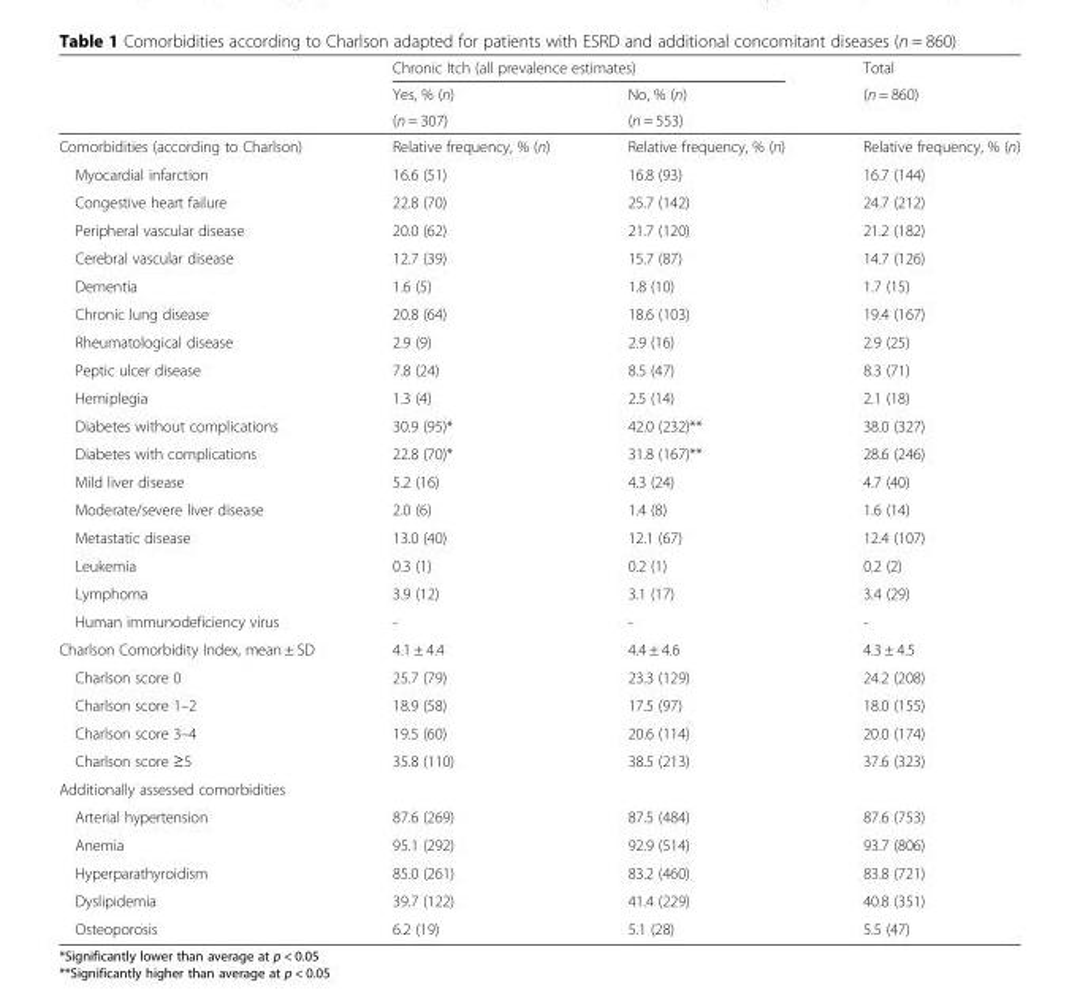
<table><thead><tr><td rowspan="3"></td><td colspan="2">Chronic Itch (all prevalence estimates)</td><td rowspan="3">Total (n = 860)</td></tr><tr><td rowspan="2">Yes, % (n) (n = 307)</td><td rowspan="2">No, % (n) (n = 553)</td></tr><tr></tr></thead><tbody><tr><td>Comorbidities (according to Charlson)</td><td>Relative frequency, % (n)</td><td>Relative frequency, % (n)</td><td>Relative frequency, % (n)</td></tr><tr><td>Myocardial infarction</td><td>16.6 (51)</td><td>16.8 (93)</td><td>16.7 (144)</td></tr><tr><td>Congestive heart failure</td><td>22.8 (70)</td><td>25.7 (142)</td><td>24.7 (212)</td></tr><tr><td>Peripheral vascular disease</td><td>20.0 (62)</td><td>21.7 (120)</td><td>21.2 (182)</td></tr><tr><td>Cerebral vascular disease</td><td>12.7 (39)</td><td>15.7 (87)</td><td>14.7 (126)</td></tr><tr><td>Dementia</td><td>1.6 (5)</td><td>1.8 (10)</td><td>1.7 (15)</td></tr><tr><td>Chronic lung disease</td><td>20.8 (64)</td><td>18.6 (103)</td><td>19.4 (167)</td></tr><tr><td>Rheumatological disease</td><td>2.9 (9)</td><td>2.9 (16)</td><td>2.9 (25)</td></tr><tr><td>Peptic ulcer disease</td><td>7.8 (24)</td><td>8.5 (47)</td><td>8.3 (71)</td></tr><tr><td>Hemiplegia</td><td>1.3 (4)</td><td>2.5 (14)</td><td>2.1 (18)</td></tr><tr><td>Diabetes without complications</td><td>30.9 (95)*</td><td>42.0 (232)**</td><td>38.0 (327)</td></tr><tr><td>Diabetes with complications</td><td>22.8 (70)*</td><td>31.8 (167)**</td><td>28.6 (246)</td></tr><tr><td>Mild liver disease</td><td>5.2 (16)</td><td>4.3 (24)</td><td>4.7 (40)</td></tr><tr><td>Moderate/severe liver disease</td><td>2.0 (6)</td><td>1.4 (8)</td><td>1.6 (14)</td></tr><tr><td>Metastatic disease</td><td>13.0 (40)</td><td>12.1 (67)</td><td>12.4 (107)</td></tr><tr><td>Leukemia</td><td>0.3 (1)</td><td>0.2 (1)</td><td>0.2 (2)</td></tr><tr><td>Lymphoma</td><td>3.9 (12)</td><td>3.1 (17)</td><td>3.4 (29)</td></tr><tr><td>Human immunodeficiency virus</td><td>-</td><td>-</td><td>-</td></tr><tr><td>Charlson Comorbidity Index, mean ± SD</td><td>4.1 ± 4.4</td><td>4.4 ± 4.6</td><td>4.3 ± 4.5</td></tr><tr><td>Charlson score 0</td><td>25.7 (79)</td><td>23.3 (129)</td><td>24.2 (208)</td></tr><tr><td>Charlson score 1–2</td><td>18.9 (58)</td><td>17.5 (97)</td><td>18.0 (155)</td></tr><tr><td>Charlson score 3–4</td><td>19.5 (60)</td><td>20.6 (114)</td><td>20.0 (174)</td></tr><tr><td>Charlson score ≥5</td><td>35.8 (110)</td><td>38.5 (213)</td><td>37.6 (323)</td></tr><tr><td colspan="4">Additionally assessed comorbidities</td></tr><tr><td>Arterial hypertension</td><td>87.6 (269)</td><td>87.5 (484)</td><td>87.6 (753)</td></tr><tr><td>Anemia</td><td>95.1 (292)</td><td>92.9 (514)</td><td>93.7 (806)</td></tr><tr><td>Hyperparathyroidism</td><td>85.0 (261)</td><td>83.2 (460)</td><td>83.8 (721)</td></tr><tr><td>Dyslipidemia</td><td>39.7 (122)</td><td>41.4 (229)</td><td>40.8 (351)</td></tr><tr><td>Osteoporosis</td><td>6.2 (19)</td><td>5.1 (28)</td><td>5.5 (47)</td></tr></tbody></table>